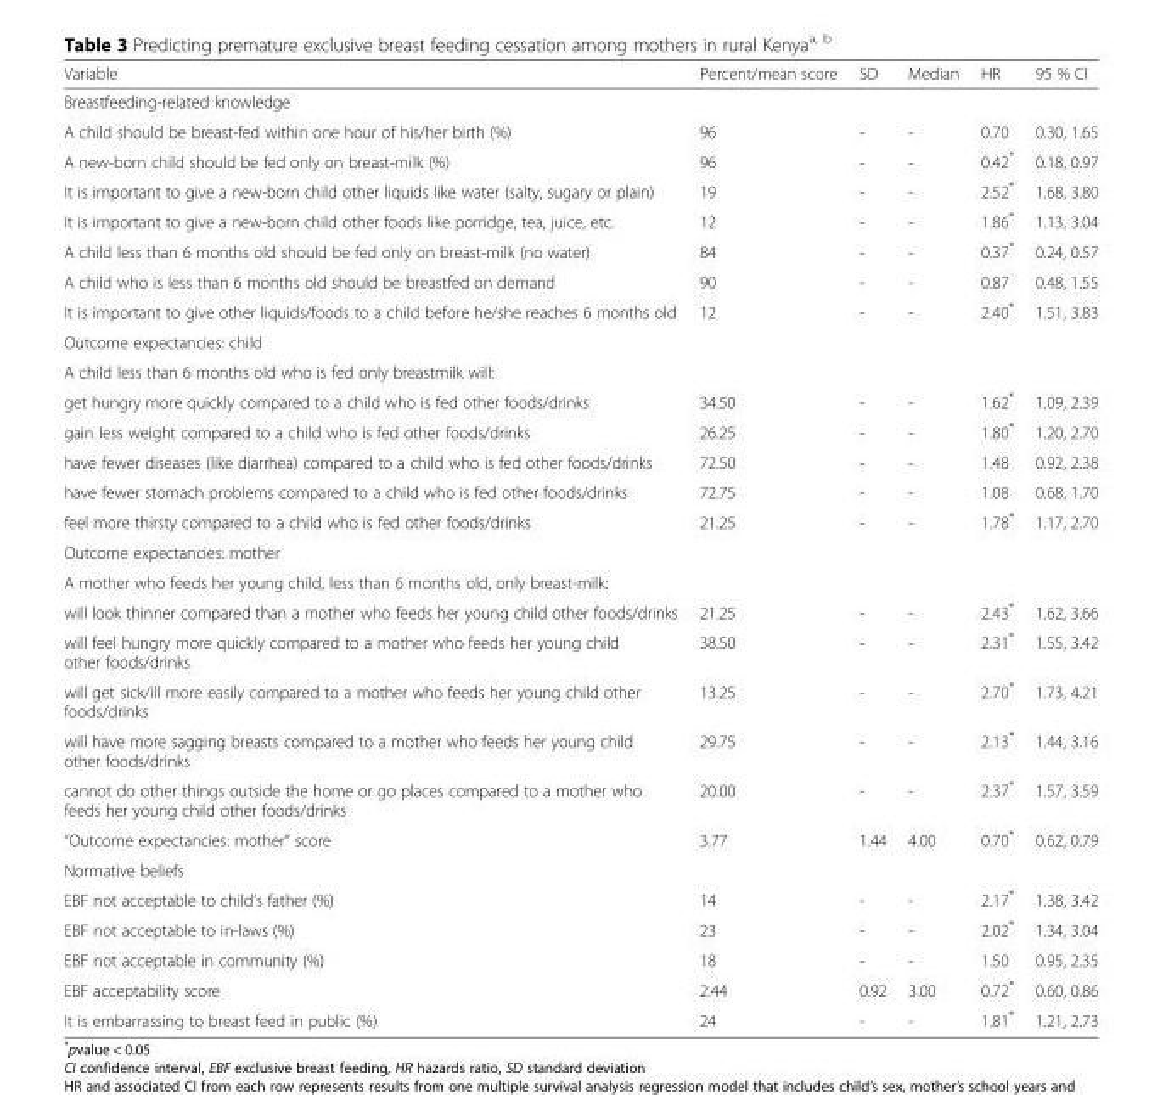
<table><thead><tr><td>Variable</td><td>Percent/mean score</td><td>SD</td><td>Median</td><td>HR</td><td>95 % CI</td></tr></thead><tbody><tr><td colspan="6">Breastfeeding-related knowledge</td></tr><tr><td>A child should be breast-fed within one hour of his/her birth (%)</td><td>96</td><td>-</td><td>-</td><td>0.70</td><td>0.30, 1.65</td></tr><tr><td>A new-born child should be fed only on breast-milk (%)</td><td>96</td><td>-</td><td>-</td><td>0.42*</td><td>0.18, 0.97</td></tr><tr><td>It is important to give a new-born child other liquids like water (salty, sugary or plain)</td><td>19</td><td>-</td><td>-</td><td>2.52*</td><td>1.68, 3.80</td></tr><tr><td>It is important to give a new-born child other foods like porridge, tea, juice, etc.</td><td>12</td><td>-</td><td>-</td><td>1.86*</td><td>1.13, 3.04</td></tr><tr><td>A child less than 6 months old should be fed only on breast-milk (no water)</td><td>84</td><td>-</td><td>-</td><td>0.37*</td><td>0.24, 0.57</td></tr><tr><td>A child who is less than 6 months old should be breastfed on demand</td><td>90</td><td>-</td><td>-</td><td>0.87</td><td>0.48, 1.55</td></tr><tr><td>It is important to give other liquids/foods to a child before he/she reaches 6 months old</td><td>12</td><td>-</td><td>-</td><td>2.40*</td><td>1.51, 3.83</td></tr><tr><td colspan="6">Outcome expectancies: child</td></tr><tr><td colspan="6">A child less than 6 months old who is fed only breastmilk will:</td></tr><tr><td>get hungry more quickly compared to a child who is fed other foods/drinks</td><td>34.50</td><td>-</td><td>-</td><td>1.62*</td><td>1.09, 2.39</td></tr><tr><td>gain less weight compared to a child who is fed other foods/drinks</td><td>26.25</td><td>-</td><td>-</td><td>1.80*</td><td>1.20, 2.70</td></tr><tr><td>have fewer diseases (like diarrhea) compared to a child who is fed other foods/drinks</td><td>72.50</td><td>-</td><td>-</td><td>1.48</td><td>0.92, 2.38</td></tr><tr><td>have fewer stomach problems compared to a child who is fed other foods/drinks</td><td>72.75</td><td>-</td><td>-</td><td>1.08</td><td>0.68, 1.70</td></tr><tr><td>feel more thirsty compared to a child who is fed other foods/drinks</td><td>21.25</td><td>-</td><td>-</td><td>1.78*</td><td>1.17, 2.70</td></tr><tr><td colspan="6">Outcome expectancies: mother</td></tr><tr><td colspan="6">A mother who feeds her young child, less than 6 months old, only breast-milk:</td></tr><tr><td>will look thinner compared than a mother who feeds her young child other foods/drinks</td><td>21.25</td><td>-</td><td>-</td><td>2.43*</td><td>1.62, 3.66</td></tr><tr><td>will feel hungry more quickly compared to a mother who feeds her young child other foods/drinks</td><td>38.50</td><td>-</td><td>-</td><td>2.31*</td><td>1.55, 3.42</td></tr><tr><td>will get sick/ill more easily compared to a mother who feeds her young child other foods/drinks</td><td>13.25</td><td>-</td><td>-</td><td>2.70*</td><td>1.73, 4.21</td></tr><tr><td>will have more sagging breasts compared to a mother who feeds her young child other foods/drinks</td><td>29.75</td><td>-</td><td>-</td><td>2.13*</td><td>1.44, 3.16</td></tr><tr><td>cannot do other things outside the home or go places compared to a mother who feeds her young child other foods/drinks</td><td>20.00</td><td>-</td><td>-</td><td>2.37*</td><td>1.57, 3.59</td></tr><tr><td>“Outcome expectancies: mother” score</td><td>3.77</td><td>1.44</td><td>4.00</td><td>0.70*</td><td>0.62, 0.79</td></tr><tr><td colspan="6">Normative beliefs</td></tr><tr><td>EBF not acceptable to child’s father (%)</td><td>14</td><td>-</td><td>-</td><td>2.17*</td><td>1.38, 3.42</td></tr><tr><td>EBF not acceptable to in-laws (%)</td><td>23</td><td>-</td><td>-</td><td>2.02*</td><td>1.34, 3.04</td></tr><tr><td>EBF not acceptable in community (%)</td><td>18</td><td>-</td><td>-</td><td>1.50</td><td>0.95, 2.35</td></tr><tr><td>EBF acceptability score</td><td>2.44</td><td>0.92</td><td>3.00</td><td>0.72*</td><td>0.60, 0.86</td></tr><tr><td>It is embarrassing to breast feed in public (%)</td><td>24</td><td>-</td><td>-</td><td>1.81*</td><td>1.21, 2.73</td></tr></tbody></table>